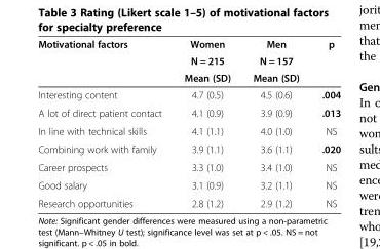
<table><thead><tr><td rowspan="3">Motivational factors</td><td rowspan="3">Women N = 215 Mean (SD)</td><td rowspan="3">Men N = 157 Mean (SD)</td><td rowspan="3">p</td></tr><tr></tr><tr></tr></thead><tbody><tr><td>Interesting content</td><td>4.7 (0.5)</td><td>4.5 (0.6)</td><td>.004</td></tr><tr><td>A lot of direct patient contact</td><td>4.1 (0.9)</td><td>3.9 (0.9)</td><td>.013</td></tr><tr><td>In line with technical skills</td><td>4.1 (1.1)</td><td>4.0 (1.0)</td><td>NS</td></tr><tr><td>Combining work with family</td><td>3.9 (1.1)</td><td>3.6 (1.1)</td><td>.020</td></tr><tr><td>Career prospects</td><td>3.3 (1.0)</td><td>3.4 (1.0)</td><td>NS</td></tr><tr><td>Good salary</td><td>3.1 (0.9)</td><td>3.2 (1.1)</td><td>NS</td></tr><tr><td>Research opportunities</td><td>2.8 (1.2)</td><td>2.9 (1.2)</td><td>NS</td></tr></tbody></table>